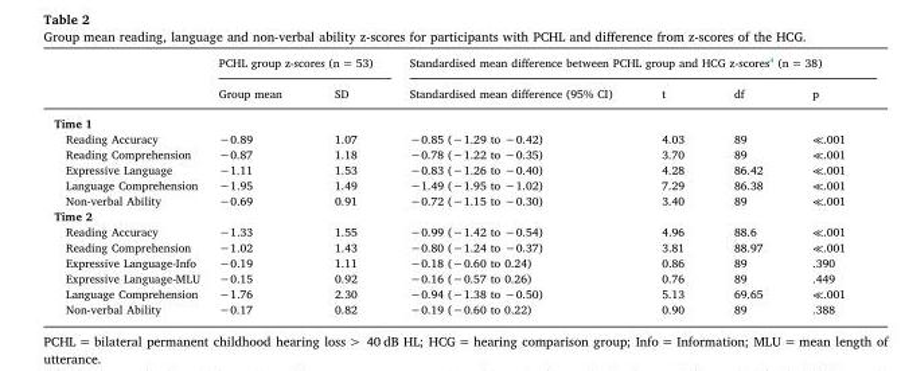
<table><thead><tr><td rowspan="2"></td><td colspan="2">PCHL group z-scores (n = 53)</td><td colspan="4">Standardised mean difference between PCHL group and HCG z-scores<sup>a</sup> (n = 38)</td></tr><tr><td>Group mean</td><td>SD</td><td>Standardised mean difference (95% CI)</td><td>t</td><td>df</td><td>p</td></tr></thead><tbody><tr><td colspan="7">Time 1</td></tr><tr><td>Reading Accuracy</td><td>−0.89</td><td>1.07</td><td>−0.85 (−1.29 to −0.42)</td><td>4.03</td><td>89</td><td>≪.001</td></tr><tr><td>Reading Comprehension</td><td>−0.87</td><td>1.18</td><td>−0.78 (−1.22 to −0.35)</td><td>3.70</td><td>89</td><td>≪.001</td></tr><tr><td>Expressive Language</td><td>−1.11</td><td>1.53</td><td>−0.83 (−1.26 to −0.40)</td><td>4.28</td><td>86.42</td><td>≪.001</td></tr><tr><td>Language Comprehension</td><td>−1.95</td><td>1.49</td><td>−1.49 (−1.95 to −1.02)</td><td>7.29</td><td>86.38</td><td>≪.001</td></tr><tr><td>Non-verbal Ability</td><td>−0.69</td><td>0.91</td><td>−0.72 (−1.15 to −0.30)</td><td>3.40</td><td>89</td><td>≪.001</td></tr><tr><td colspan="7">Time 2</td></tr><tr><td>Reading Accuracy</td><td>−1.33</td><td>1.55</td><td>−0.99 (−1.42 to −0.54)</td><td>4.96</td><td>88.6</td><td>≪.001</td></tr><tr><td>Reading Comprehension</td><td>−1.02</td><td>1.43</td><td>−0.80 (−1.24 to −0.37)</td><td>3.81</td><td>88.97</td><td>≪.001</td></tr><tr><td>Expressive Language-Info</td><td>−0.19</td><td>1.11</td><td>−0.18 (−0.60 to 0.24)</td><td>0.86</td><td>89</td><td>.390</td></tr><tr><td>Expressive Language-MLU</td><td>−0.15</td><td>0.92</td><td>−0.16 (−0.57 to 0.26)</td><td>0.76</td><td>89</td><td>.449</td></tr><tr><td>Language Comprehension</td><td>−1.76</td><td>2.30</td><td>−0.94 (−1.38 to −0.50)</td><td>5.13</td><td>69.65</td><td>≪.001</td></tr><tr><td>Non-verbal Ability</td><td>−0.17</td><td>0.82</td><td>−0.19 (−0.60 to 0.22)</td><td>0.90</td><td>89</td><td>.388</td></tr></tbody></table>